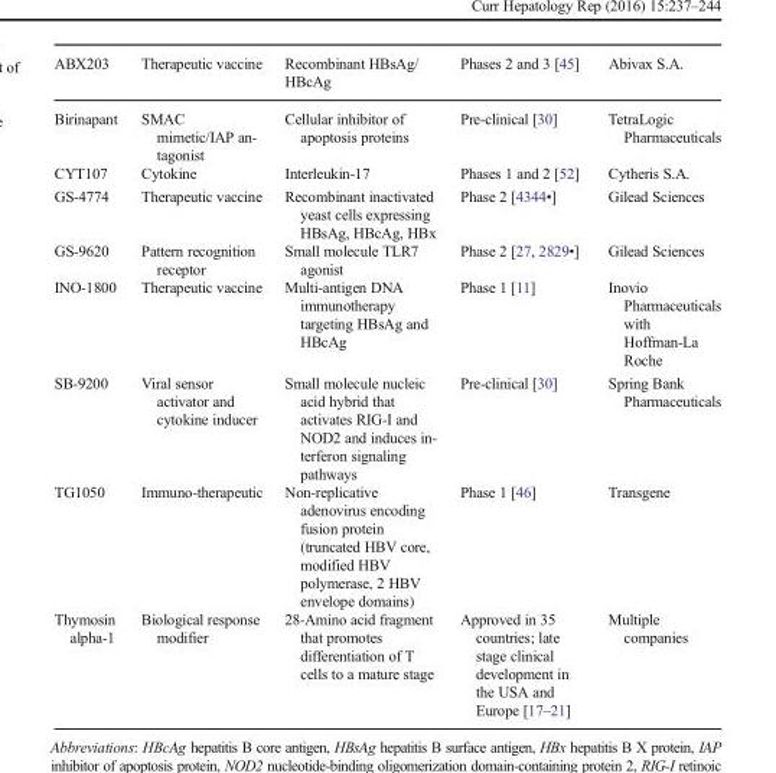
<table><thead><tr><td>ABX203</td><td>Therapeutic vaccine</td><td>Recombinant HBsAg/ HBcAg</td><td>Phases 2 and 3 [45]</td><td>Abivax S.A.</td></tr></thead><tbody><tr><td>Birinapant</td><td>SMAC mimetic/IAP an- tagonist</td><td>Cellular inhibitor of apoptosis proteins</td><td>Pre-clinical [30]</td><td>TetraLogic Pharmaceuticals</td></tr><tr><td>CYT107</td><td>Cytokine</td><td>Interleukin-17</td><td>Phases 1 and 2 [52]</td><td>Cytheris S.A.</td></tr><tr><td>GS-4774</td><td>Therapeutic vaccine</td><td>Recombinant inactivated yeast cells expressing HBsAg, HBcAg, HBx</td><td>Phase 2 [4344•]</td><td>Gilead Sciences</td></tr><tr><td>GS-9620</td><td>Pattern recognition receptor</td><td>Small molecule TLR7 agonist</td><td>Phase 2 [27, 2829•]</td><td>Gilead Sciences</td></tr><tr><td>INO-1800</td><td>Therapeutic vaccine</td><td>Multi-antigen DNA immunotherapy targeting HBsAg and HBcAg</td><td>Phase 1 [11]</td><td>Inovio Pharmaceuticals with Hoffman-La Roche</td></tr><tr><td>SB-9200</td><td>Viral sensor activator and cytokine inducer</td><td>Small molecule nucleic acid hybrid that activates RIG-I and NOD2 and induces in- terferon signaling pathways</td><td>Pre-clinical [30]</td><td>Spring Bank Pharmaceuticals</td></tr><tr><td>TG1050</td><td>Immuno-therapeutic</td><td>Non-replicative adenovirus encoding fusion protein (truncated HBV core, modified HBV polymerase, 2 HBV envelope domains)</td><td>Phase 1 [46]</td><td>Transgene</td></tr><tr><td>Thymosin alpha-1</td><td>Biological response modifier</td><td>28-Amino acid fragment that promotes differentiation of T cells to a mature stage</td><td>Approved in 35 countries; late stage clinical development in the USA and Europe [17–21]</td><td>Multiple companies</td></tr></tbody></table>